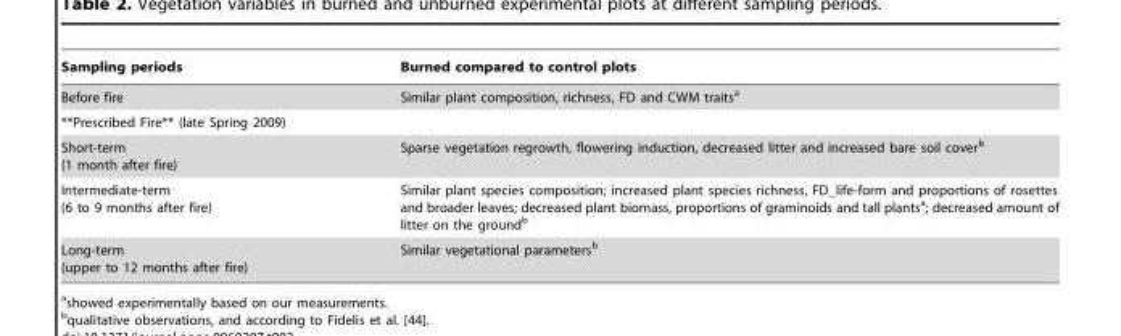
<table><thead><tr><td>Sampling periods</td><td>Burned compared to control plots</td></tr></thead><tbody><tr><td>Before fire</td><td>Similar plant composition, richness, FD and CWM traits<sup>a</sup></td></tr><tr><td colspan="2">**Prescribed Fire** (late Spring 2009)</td></tr><tr><td>Short-term (1 month after fire)</td><td>Sparse vegetation regrowth, flowering induction, decreased litter and increased bare soil cover<sup>b</sup></td></tr><tr><td>Intermediate-term (6 to 9 months after fire)</td><td>Similar plant species composition; increased plant species richness, FD_life-form and proportions of rosettes and broader leaves; decreased plant biomass, proportions of graminoids and tall plants<sup>a</sup>; decreased amount of litter on the ground<sup>b</sup></td></tr><tr><td>Long-term (upper to 12 months after fire)</td><td>Similar vegetational parameters<sup>b</sup></td></tr></tbody></table>